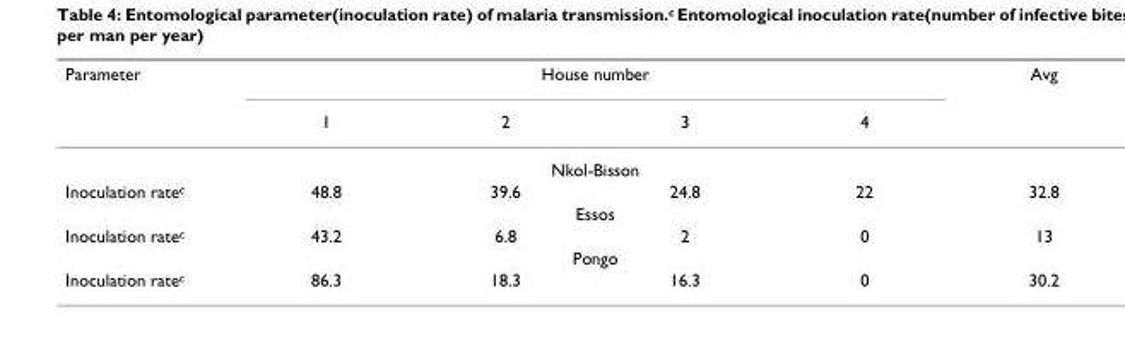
<table><thead><tr><td rowspan="2">Parameter</td><td colspan="4">House number</td><td rowspan="2">Avg</td></tr><tr><td>1</td><td>2</td><td>3</td><td>4</td></tr></thead><tbody><tr><td></td><td colspan="4">Nkol-Bisson</td><td></td></tr><tr><td rowspan="2">Inoculation rate<sup>c</sup></td><td>48.8</td><td>39.6</td><td>24.8</td><td>22</td><td>32.8</td></tr><tr><td colspan="4">Essos</td><td></td></tr><tr><td rowspan="2">Inoculation rate<sup>c</sup></td><td>43.2</td><td>6.8</td><td>2</td><td>0</td><td>13</td></tr><tr><td colspan="4">Pongo</td><td></td></tr><tr><td>Inoculation rate<sup>c</sup></td><td>86.3</td><td>18.3</td><td>16.3</td><td>0</td><td>30.2</td></tr></tbody></table>